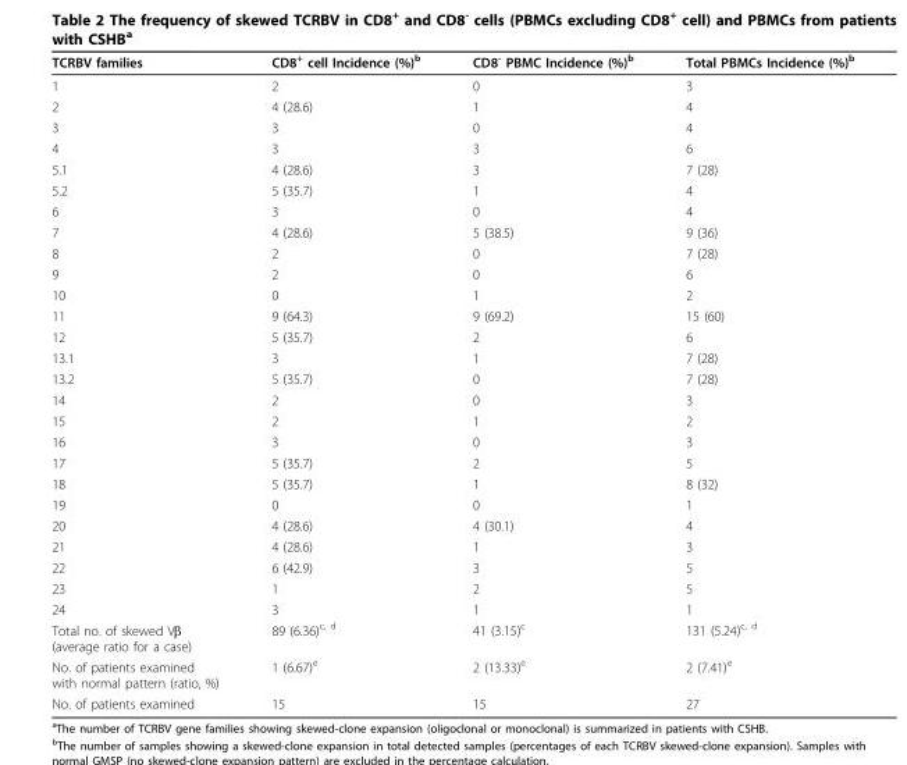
<table><thead><tr><td>TCRBV families</td><td>CD8<sup>+</sup> cell Incidence (%)<sup>b</sup></td><td>CD8<sup>-</sup> PBMC Incidence (%)<sup>b</sup></td><td>Total PBMCs Incidence (%)<sup>b</sup></td></tr></thead><tbody><tr><td>1</td><td>2</td><td>0</td><td>3</td></tr><tr><td>2</td><td>4 (28.6)</td><td>1</td><td>4</td></tr><tr><td>3</td><td>3</td><td>0</td><td>4</td></tr><tr><td>4</td><td>3</td><td>3</td><td>6</td></tr><tr><td>5.1</td><td>4 (28.6)</td><td>3</td><td>7 (28)</td></tr><tr><td>5.2</td><td>5 (35.7)</td><td>1</td><td>4</td></tr><tr><td>6</td><td>3</td><td>0</td><td>4</td></tr><tr><td>7</td><td>4 (28.6)</td><td>5 (38.5)</td><td>9 (36)</td></tr><tr><td>8</td><td>2</td><td>0</td><td>7 (28)</td></tr><tr><td>9</td><td>2</td><td>0</td><td>6</td></tr><tr><td>10</td><td>0</td><td>1</td><td>2</td></tr><tr><td>11</td><td>9 (64.3)</td><td>9 (69.2)</td><td>15 (60)</td></tr><tr><td>12</td><td>5 (35.7)</td><td>2</td><td>6</td></tr><tr><td>13.1</td><td>3</td><td>1</td><td>7 (28)</td></tr><tr><td>13.2</td><td>5 (35.7)</td><td>0</td><td>7 (28)</td></tr><tr><td>14</td><td>2</td><td>0</td><td>3</td></tr><tr><td>15</td><td>2</td><td>1</td><td>2</td></tr><tr><td>16</td><td>3</td><td>0</td><td>3</td></tr><tr><td>17</td><td>5 (35.7)</td><td>2</td><td>5</td></tr><tr><td>18</td><td>5 (35.7)</td><td>1</td><td>8 (32)</td></tr><tr><td>19</td><td>0</td><td>0</td><td>1</td></tr><tr><td>20</td><td>4 (28.6)</td><td>4 (30.1)</td><td>4</td></tr><tr><td>21</td><td>4 (28.6)</td><td>1</td><td>3</td></tr><tr><td>22</td><td>6 (42.9)</td><td>3</td><td>5</td></tr><tr><td>23</td><td>1</td><td>2</td><td>5</td></tr><tr><td>24</td><td>3</td><td>1</td><td>1</td></tr><tr><td>Total no. of skewed Vβ (average ratio for a case)</td><td>89 (6.36)<sup>c, d</sup></td><td>41 (3.15)<sup>c</sup></td><td>131 (5.24)<sup>c, d</sup></td></tr><tr><td>No. of patients examined with normal pattern (ratio, %)</td><td>1 (6.67)<sup>e</sup></td><td>2 (13.33)<sup>e</sup></td><td>2 (7.41)<sup>e</sup></td></tr><tr><td>No. of patients examined</td><td>15</td><td>15</td><td>27</td></tr></tbody></table>